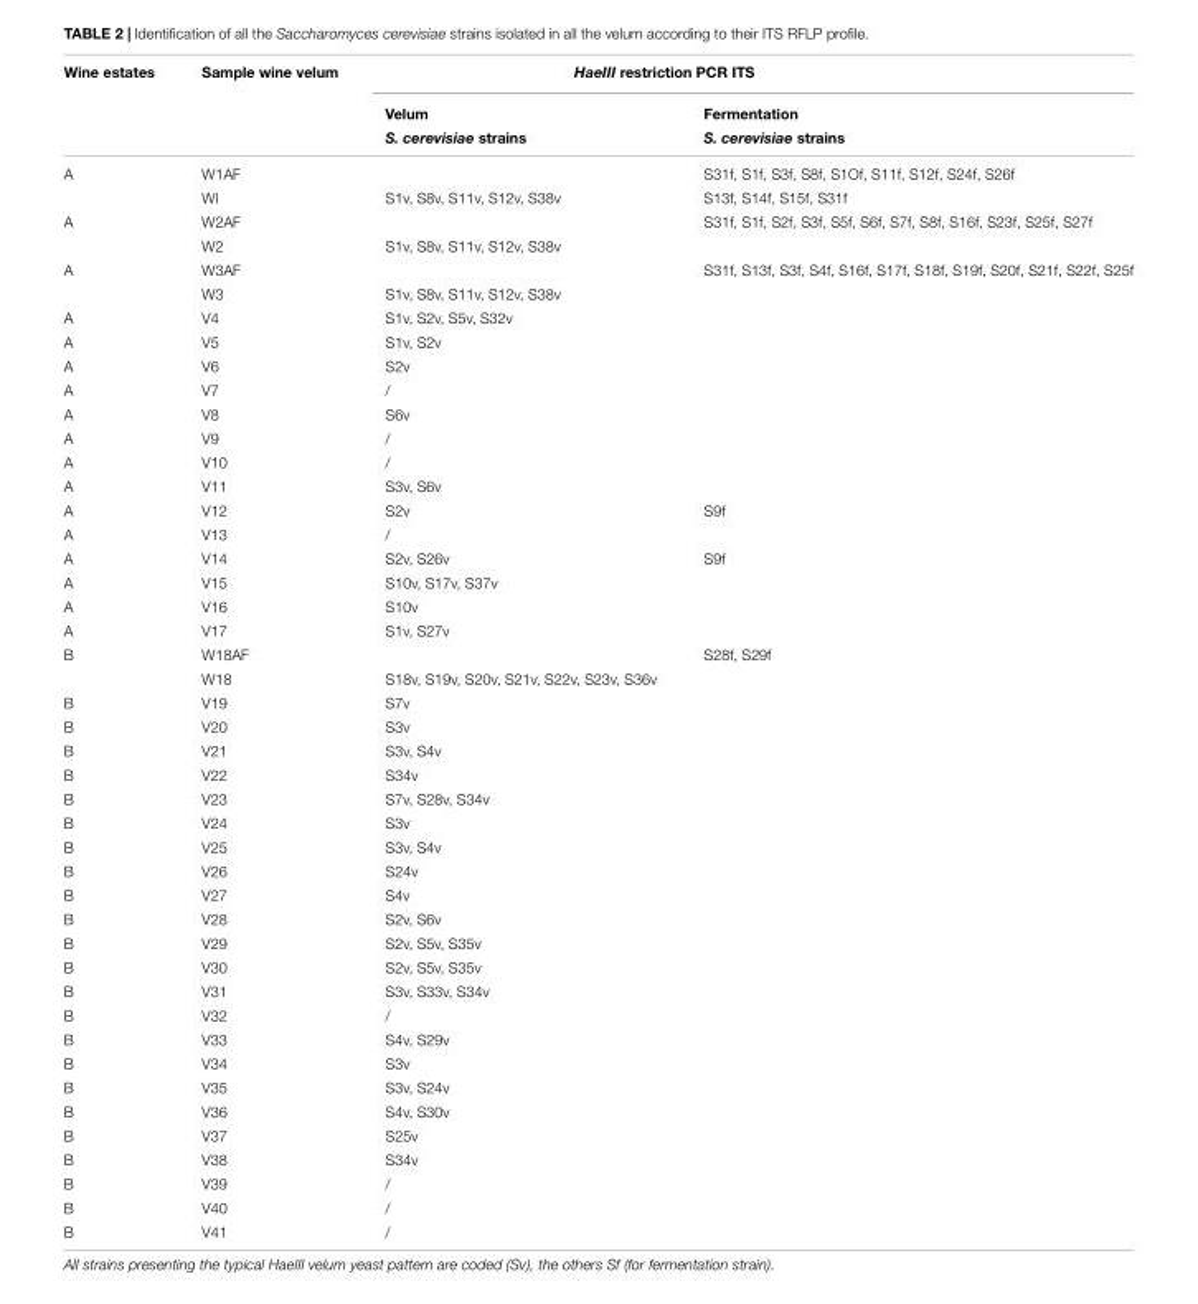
<table><thead><tr><td rowspan="3">Wine estates</td><td rowspan="3">Sample wine velum</td><td colspan="2">HaeIII restriction PCR ITS</td></tr><tr><td rowspan="2">Velum S. cerevisiae strains</td><td rowspan="2">Fermentation S. cerevisiae strains</td></tr><tr></tr></thead><tbody><tr><td rowspan="2">A</td><td>W1AF</td><td></td><td>S31f, S1f, S3f, S8f, S1Of, S11f, S12f, S24f, S26f</td></tr><tr><td>Wl</td><td>S1v, S8v, S11v, S12v, S38v</td><td>S13f, S14f, S15f, S31f</td></tr><tr><td rowspan="2">A</td><td>W2AF</td><td></td><td>S31f, S1f, S2f, S3f, S5f, S6f, S7f, S8f, S16f, S23f, S25f, S27f</td></tr><tr><td>W2</td><td>S1v, S8v, S11v, S12v, S38v</td><td></td></tr><tr><td rowspan="2">A</td><td>W3AF</td><td></td><td>S31f, S13f, S3f, S4f, S16f, S17f, S18f, S19f, S20f, S21f, S22f, S25f</td></tr><tr><td>W3</td><td>S1v, S8v, S11v, S12v, S38v</td><td></td></tr><tr><td>A</td><td>V4</td><td>S1v, S2v, S5v, S32v</td><td></td></tr><tr><td>A</td><td>V5</td><td>S1v, S2v</td><td></td></tr><tr><td>A</td><td>V6</td><td>S2v</td><td></td></tr><tr><td>A</td><td>V7</td><td>/</td><td></td></tr><tr><td>A</td><td>V8</td><td>S6v</td><td></td></tr><tr><td>A</td><td>V9</td><td>/</td><td></td></tr><tr><td>A</td><td>V10</td><td>/</td><td></td></tr><tr><td>A</td><td>V11</td><td>S3v, S6v</td><td></td></tr><tr><td>A</td><td>V12</td><td>S2v</td><td>S9f</td></tr><tr><td>A</td><td>V13</td><td>/</td><td></td></tr><tr><td>A</td><td>V14</td><td>S2v, S26v</td><td>S9f</td></tr><tr><td>A</td><td>V15</td><td>S10v, S17v, S37v</td><td></td></tr><tr><td>A</td><td>V16</td><td>S10v</td><td></td></tr><tr><td>A</td><td>V17</td><td>S1v, S27v</td><td></td></tr><tr><td rowspan="2">B</td><td>W18AF</td><td></td><td>S28f, S29f</td></tr><tr><td>W18</td><td>S18v, S19v, S20v, S21v, S22v, S23v, S36v</td><td></td></tr><tr><td>B</td><td>V19</td><td>S7v</td><td></td></tr><tr><td>B</td><td>V20</td><td>S3v</td><td></td></tr><tr><td>B</td><td>V21</td><td>S3v, S4v</td><td></td></tr><tr><td>B</td><td>V22</td><td>S34v</td><td></td></tr><tr><td>B</td><td>V23</td><td>S7v, S28v, S34v</td><td></td></tr><tr><td>B</td><td>V24</td><td>S3v</td><td></td></tr><tr><td>B</td><td>V25</td><td>S3v, S4v</td><td></td></tr><tr><td>B</td><td>V26</td><td>S24v</td><td></td></tr><tr><td>B</td><td>V27</td><td>S4v</td><td></td></tr><tr><td>B</td><td>V28</td><td>S2v, S6v</td><td></td></tr><tr><td>B</td><td>V29</td><td>S2v, S5v, S35v</td><td></td></tr><tr><td>B</td><td>V30</td><td>S2v, S5v, S35v</td><td></td></tr><tr><td>B</td><td>V31</td><td>S3v, S33v, S34v</td><td></td></tr><tr><td>B</td><td>V32</td><td>/</td><td></td></tr><tr><td>B</td><td>V33</td><td>S4v, S29v</td><td></td></tr><tr><td>B</td><td>V34</td><td>S3v</td><td></td></tr><tr><td>B</td><td>V35</td><td>S3v, S24v</td><td></td></tr><tr><td>B</td><td>V36</td><td>S4v, S30v</td><td></td></tr><tr><td>B</td><td>V37</td><td>S25v</td><td></td></tr><tr><td>B</td><td>V38</td><td>S34v</td><td></td></tr><tr><td>B</td><td>V39</td><td>/</td><td></td></tr><tr><td>B</td><td>V40</td><td>/</td><td></td></tr><tr><td>B</td><td>V41</td><td>/</td><td></td></tr></tbody></table>